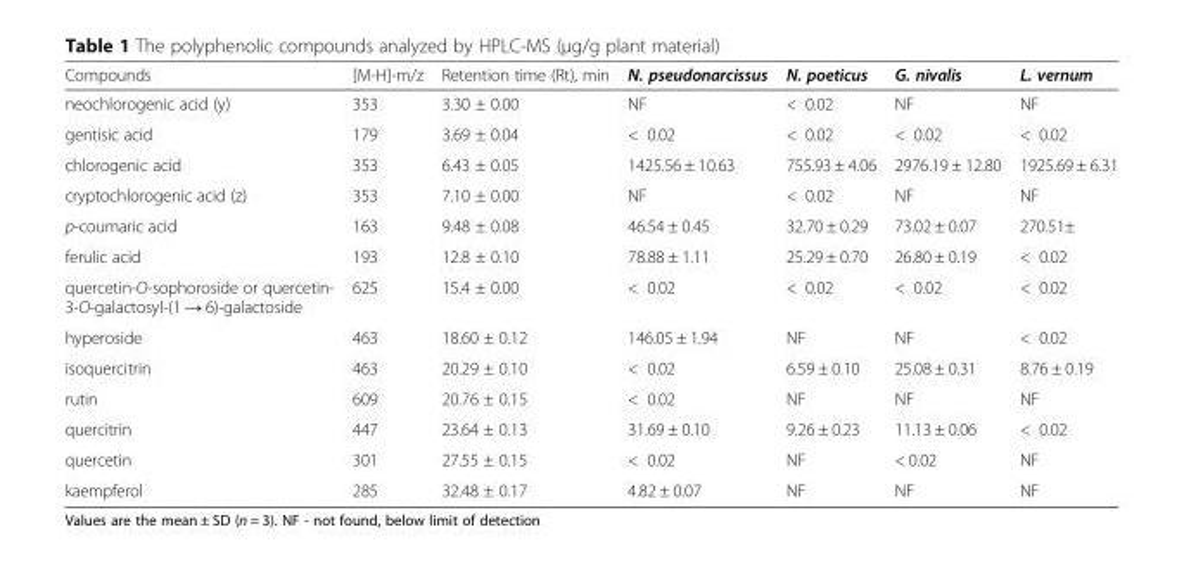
<table><thead><tr><td>Compounds</td><td>[M-H]-m/z</td><td>Retention time (Rt), min</td><td>N. pseudonarcissus</td><td>N. poeticus</td><td>G. nivalis</td><td>L. vernum</td></tr></thead><tbody><tr><td>neochlorogenic acid (y)</td><td>353</td><td>3.30 ± 0.00</td><td>NF</td><td>&lt; 0.02</td><td>NF</td><td>NF</td></tr><tr><td>gentisic acid</td><td>179</td><td>3.69 ± 0.04</td><td>&lt; 0.02</td><td>&lt; 0.02</td><td>&lt; 0.02</td><td>&lt; 0.02</td></tr><tr><td>chlorogenic acid</td><td>353</td><td>6.43 ± 0.05</td><td>1425.56 ± 10.63</td><td>755.93 ± 4.06</td><td>2976.19 ± 12.80</td><td>1925.69 ± 6.31</td></tr><tr><td>cryptochlorogenic acid (z)</td><td>353</td><td>7.10 ± 0.00</td><td>NF</td><td>&lt; 0.02</td><td>NF</td><td>NF</td></tr><tr><td>p-coumaric acid</td><td>163</td><td>9.48 ± 0.08</td><td>46.54 ± 0.45</td><td>32.70 ± 0.29</td><td>73.02 ± 0.07</td><td>270.51±</td></tr><tr><td>ferulic acid</td><td>193</td><td>12.8 ± 0.10</td><td>78.88 ± 1.11</td><td>25.29 ± 0.70</td><td>26.80 ± 0.19</td><td>&lt; 0.02</td></tr><tr><td>quercetin-O-sophoroside or quercetin- 3-O-galactosyl-(1 → 6)-galactoside</td><td>625</td><td>15.4 ± 0.00</td><td>&lt; 0.02</td><td>&lt; 0.02</td><td>&lt; 0.02</td><td>&lt; 0.02</td></tr><tr><td>hyperoside</td><td>463</td><td>18.60 ± 0.12</td><td>146.05 ± 1.94</td><td>NF</td><td>NF</td><td>&lt; 0.02</td></tr><tr><td>isoquercitrin</td><td>463</td><td>20.29 ± 0.10</td><td>&lt; 0.02</td><td>6.59 ± 0.10</td><td>25.08 ± 0.31</td><td>8.76 ± 0.19</td></tr><tr><td>rutin</td><td>609</td><td>20.76 ± 0.15</td><td>&lt; 0.02</td><td>NF</td><td>NF</td><td>NF</td></tr><tr><td>quercitrin</td><td>447</td><td>23.64 ± 0.13</td><td>31.69 ± 0.10</td><td>9.26 ± 0.23</td><td>11.13 ± 0.06</td><td>&lt; 0.02</td></tr><tr><td>quercetin</td><td>301</td><td>27.55 ± 0.15</td><td>&lt; 0.02</td><td>NF</td><td>&lt; 0.02</td><td>NF</td></tr><tr><td>kaempferol</td><td>285</td><td>32.48 ± 0.17</td><td>4.82 ± 0.07</td><td>NF</td><td>NF</td><td>NF</td></tr></tbody></table>